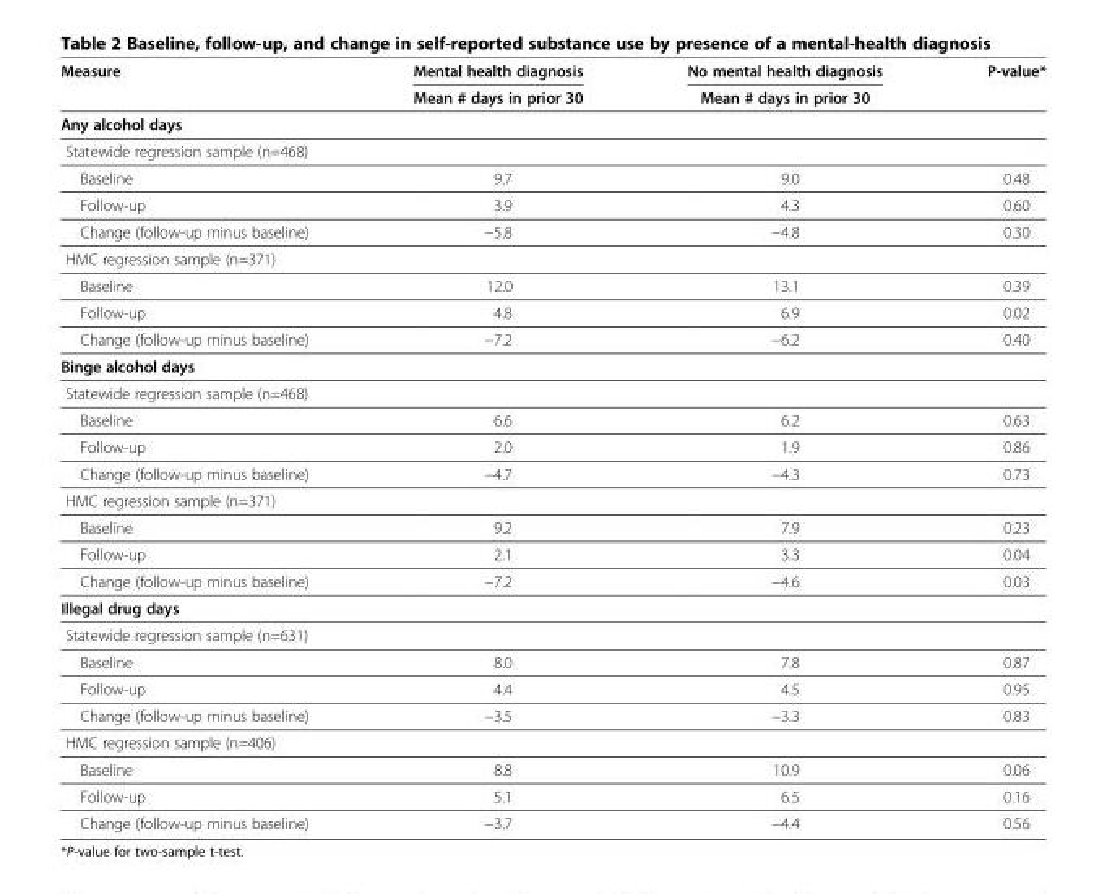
<table><thead><tr><td rowspan="2">Measure</td><td rowspan="2">Mental health diagnosis Mean # days in prior 30</td><td rowspan="2">No mental health diagnosis Mean # days in prior 30</td><td rowspan="2">P-value*</td></tr><tr></tr></thead><tbody><tr><td colspan="4">Any alcohol days</td></tr><tr><td colspan="4">Statewide regression sample (n=468)</td></tr><tr><td>Baseline</td><td>9.7</td><td>9.0</td><td>0.48</td></tr><tr><td>Follow-up</td><td>3.9</td><td>4.3</td><td>0.60</td></tr><tr><td>Change (follow-up minus baseline)</td><td>−5.8</td><td>−4.8</td><td>0.30</td></tr><tr><td colspan="4">HMC regression sample (n=371)</td></tr><tr><td>Baseline</td><td>12.0</td><td>13.1</td><td>0.39</td></tr><tr><td>Follow-up</td><td>4.8</td><td>6.9</td><td>0.02</td></tr><tr><td>Change (follow-up minus baseline)</td><td>−7.2</td><td>−6.2</td><td>0.40</td></tr><tr><td colspan="4">Binge alcohol days</td></tr><tr><td colspan="4">Statewide regression sample (n=468)</td></tr><tr><td>Baseline</td><td>6.6</td><td>6.2</td><td>0.63</td></tr><tr><td>Follow-up</td><td>2.0</td><td>1.9</td><td>0.86</td></tr><tr><td>Change (follow-up minus baseline)</td><td>−4.7</td><td>−4.3</td><td>0.73</td></tr><tr><td colspan="4">HMC regression sample (n=371)</td></tr><tr><td>Baseline</td><td>9.2</td><td>7.9</td><td>0.23</td></tr><tr><td>Follow-up</td><td>2.1</td><td>3.3</td><td>0.04</td></tr><tr><td>Change (follow-up minus baseline)</td><td>−7.2</td><td>−4.6</td><td>0.03</td></tr><tr><td colspan="4">Illegal drug days</td></tr><tr><td colspan="4">Statewide regression sample (n=631)</td></tr><tr><td>Baseline</td><td>8.0</td><td>7.8</td><td>0.87</td></tr><tr><td>Follow-up</td><td>4.4</td><td>4.5</td><td>0.95</td></tr><tr><td>Change (follow-up minus baseline)</td><td>−3.5</td><td>−3.3</td><td>0.83</td></tr><tr><td colspan="4">HMC regression sample (n=406)</td></tr><tr><td>Baseline</td><td>8.8</td><td>10.9</td><td>0.06</td></tr><tr><td>Follow-up</td><td>5.1</td><td>6.5</td><td>0.16</td></tr><tr><td>Change (follow-up minus baseline)</td><td>−3.7</td><td>−4.4</td><td>0.56</td></tr></tbody></table>